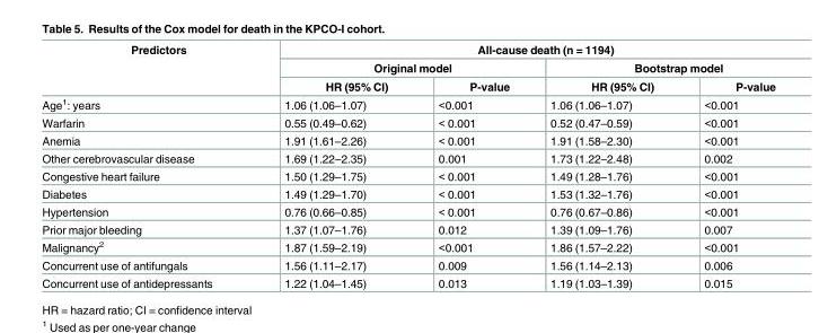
<table><thead><tr><td rowspan="3">Predictors</td><td colspan="4">All-cause death (n = 1194)</td></tr><tr><td colspan="2">Original model</td><td colspan="2">Bootstrap model</td></tr><tr><td>HR (95% CI)</td><td>P-value</td><td>HR (95% CI)</td><td>P-value</td></tr></thead><tbody><tr><td>Age<sup>1</sup>: years</td><td>1.06 (1.06–1.07)</td><td>&lt;0.001</td><td>1.06 (1.06–1.07)</td><td>&lt;0.001</td></tr><tr><td>Warfarin</td><td>0.55 (0.49–0.62)</td><td>&lt; 0.001</td><td>0.52 (0.47–0.59)</td><td>&lt;0.001</td></tr><tr><td>Anemia</td><td>1.91 (1.61–2.26)</td><td>&lt; 0.001</td><td>1.91 (1.58–2.30)</td><td>&lt;0.001</td></tr><tr><td>Other cerebrovascular disease</td><td>1.69 (1.22–2.35)</td><td>0.001</td><td>1.73 (1.22–2.48)</td><td>0.002</td></tr><tr><td>Congestive heart failure</td><td>1.50 (1.29–1.75)</td><td>&lt; 0.001</td><td>1.49 (1.28–1.76)</td><td>&lt;0.001</td></tr><tr><td>Diabetes</td><td>1.49 (1.29–1.70)</td><td>&lt; 0.001</td><td>1.53 (1.32–1.76)</td><td>&lt;0.001</td></tr><tr><td>Hypertension</td><td>0.76 (0.66–0.85)</td><td>&lt; 0.001</td><td>0.76 (0.67–0.86)</td><td>&lt;0.001</td></tr><tr><td>Prior major bleeding</td><td>1.37 (1.07–1.76)</td><td>0.012</td><td>1.39 (1.09–1.76)</td><td>0.007</td></tr><tr><td>Malignancy<sup>2</sup></td><td>1.87 (1.59–2.19)</td><td>&lt;0.001</td><td>1.86 (1.57–2.22)</td><td>&lt;0.001</td></tr><tr><td>Concurrent use of antifungals</td><td>1.56 (1.11–2.17)</td><td>0.009</td><td>1.56 (1.14–2.13)</td><td>0.006</td></tr><tr><td>Concurrent use of antidepressants</td><td>1.22 (1.04–1.45)</td><td>0.013</td><td>1.19 (1.03–1.39)</td><td>0.015</td></tr></tbody></table>